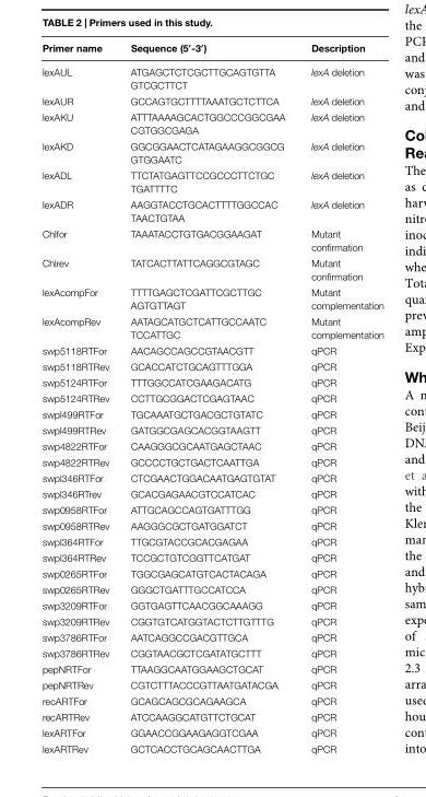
<table><thead><tr><td>Primer name</td><td>Sequence (5′-3′)</td><td>Description</td></tr></thead><tbody><tr><td>lexAUL</td><td>ATGAGCTCTCGCTTGCAGTGTTA GTCGCTTCT</td><td>lexA deletion</td></tr><tr><td>lexAUR</td><td>GCCAGTGCTTTTAAATGCTCTTCA</td><td>lexA deletion</td></tr><tr><td>lexAKU</td><td>ATTTAAAAGCACTGGCCCGGCGAA CGTGGCGAGA</td><td>lexA deletion</td></tr><tr><td>lexAKD</td><td>GGCGGAACTCATAGAAGGCGGCG GTGGAATC</td><td>lexA deletion</td></tr><tr><td>lexADL</td><td>TTCTATGAGTTCCGCCCTTCTGC TGATTTTC</td><td>lexA deletion</td></tr><tr><td>lexADR</td><td>AAGGTACCTGCACTTTTGGCCAC TAACTGTAA</td><td>lexA deletion</td></tr><tr><td>Chlfor</td><td>TAAATACCTGTGACGGAAGAT</td><td>Mutant confirmation</td></tr><tr><td>Chlrev</td><td>TATCACTTATTCAGGCGTAGC</td><td>Mutant confirmation</td></tr><tr><td>lexAcompFor</td><td>TTTTGAGCTCGATTCGCTTGC AGTGTTAGT</td><td>Mutant complementation</td></tr><tr><td>lexAcompRev</td><td>AATAGCATGCTCATTGCCAATC TCCATTGC</td><td>Mutant complementation</td></tr><tr><td>swp5118RTFor</td><td>AACAGCCAGCCGTAACGTT</td><td>qPCR</td></tr><tr><td>swp5118RTRev</td><td>GCACCATCTGCAGTTTGGA</td><td>qPCR</td></tr><tr><td>swp5124RTFor</td><td>TTTGGCCATCGAAGACATG</td><td>qPCR</td></tr><tr><td>swp5124RTRev</td><td>CCTTGCGGACTCGAGTAAC</td><td>qPCR</td></tr><tr><td>swpl499RTFor</td><td>TGCAAATGCTGACGCTGTATC</td><td>qPCR</td></tr><tr><td>swpl499RTRev</td><td>GATGGCGAGCACGGTAAGTT</td><td>qPCR</td></tr><tr><td>swp4822RTFor</td><td>CAAGGGCGCAATGAGCTAAC</td><td>qPCR</td></tr><tr><td>swp4822RTRev</td><td>GCCCCTGCTGACTCAATTGA</td><td>qPCR</td></tr><tr><td>swpl346RTFor</td><td>CTCGAACTGGACAATGAGTGTAT</td><td>qPCR</td></tr><tr><td>swpl346RTrev</td><td>GCACGAGAACGTCCATCAC</td><td>qPCR</td></tr><tr><td>swp0958RTFor</td><td>ATTGCAGCCAGTGATTTGG</td><td>qPCR</td></tr><tr><td>swp0958RTRev</td><td>AAGGGCGCTGATGGATCT</td><td>qPCR</td></tr><tr><td>swpl364RTFor</td><td>TTGCGTACCGCACGAGAA</td><td>qPCR</td></tr><tr><td>swpl364RTRev</td><td>TCCGCTGTCGGTTCATGAT</td><td>qPCR</td></tr><tr><td>swp0265RTFor</td><td>TGGCGAGCATGTCACTACAGA</td><td>qPCR</td></tr><tr><td>swp0265RTRev</td><td>GGGCTGATTTGCCATCCA</td><td>qPCR</td></tr><tr><td>swp3209RTFor</td><td>GGTGAGTTCAACGGCAAAGG</td><td>qPCR</td></tr><tr><td>swp3209RTRev</td><td>CGGTGTCATGGTACTCTTGTTTG</td><td>qPCR</td></tr><tr><td>swp3786RTFor</td><td>AATCAGGCCGACGTTGCA</td><td>qPCR</td></tr><tr><td>swp3786RTRev</td><td>CGGTAACGCTCGATATGCTTT</td><td>qPCR</td></tr><tr><td>pepNRTFor</td><td>TTAAGGCAATGGAAGCTGCAT</td><td>qPCR</td></tr><tr><td>pepNRTRev</td><td>CGTCTTTACCCGTTAATGATACGA</td><td>qPCR</td></tr><tr><td>recARTFor</td><td>GCAGCAGCGCAGAAGCA</td><td>qPCR</td></tr><tr><td>recARTRev</td><td>ATCCAAGGCATGTTCTGCAT</td><td>qPCR</td></tr><tr><td>lexARTFor</td><td>GGAACCGGAAGAGGTCGAA</td><td>qPCR</td></tr><tr><td>lexARTRev</td><td>GCTCACCTGCAGCAACTTGA</td><td>qPCR</td></tr></tbody></table>